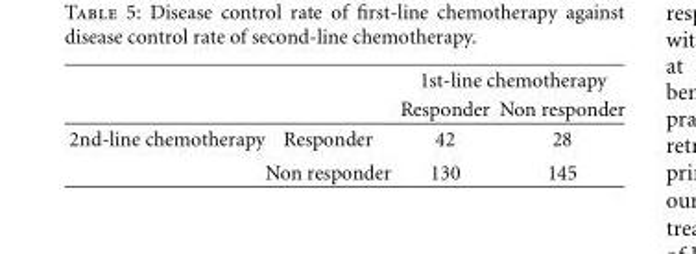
<table><thead><tr><td rowspan="2"></td><td rowspan="2"></td><td colspan="2">1st-line chemotherapy</td></tr><tr><td>Responder</td><td>Non responder</td></tr></thead><tbody><tr><td rowspan="2">2nd-line chemotherapy</td><td>Responder</td><td>42</td><td>28</td></tr><tr><td>Non responder</td><td>130</td><td>145</td></tr></tbody></table>